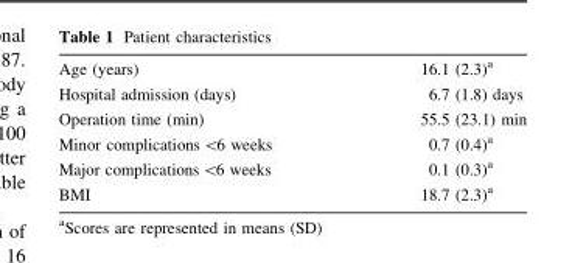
<table><tbody><tr><td>Age (years)</td><td>16.1 (2.3)<sup>a</sup></td></tr><tr><td>Hospital admission (days)</td><td>6.7 (1.8) days</td></tr><tr><td>Operation time (min)</td><td>55.5 (23.1) min</td></tr><tr><td>Minor complications &lt;6 weeks</td><td>0.7 (0.4)<sup>a</sup></td></tr><tr><td>Major complications &lt;6 weeks</td><td>0.1 (0.3)<sup>a</sup></td></tr><tr><td>BMI</td><td>18.7 (2.3)<sup>a</sup></td></tr></tbody></table>